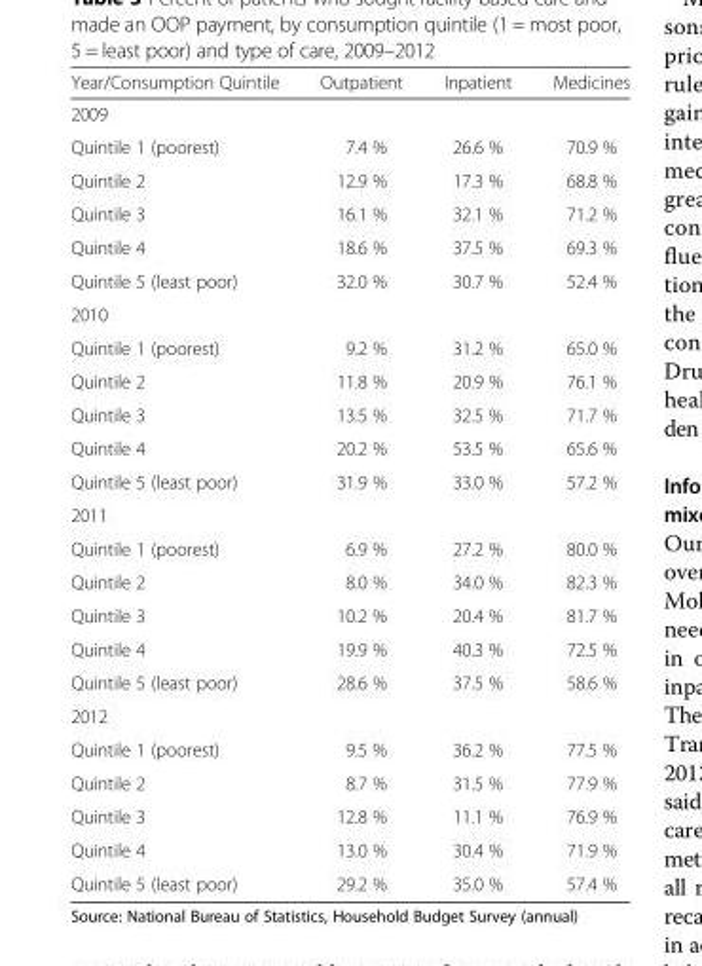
<table><thead><tr><td>Year/Consumption Quintile</td><td>Outpatient</td><td>Inpatient</td><td>Medicines</td></tr></thead><tbody><tr><td colspan="4">2009</td></tr><tr><td>Quintile 1 (poorest)</td><td>7.4 %</td><td>26.6 %</td><td>70.9 %</td></tr><tr><td>Quintile 2</td><td>12.9 %</td><td>17.3 %</td><td>68.8 %</td></tr><tr><td>Quintile 3</td><td>16.1 %</td><td>32.1 %</td><td>71.2 %</td></tr><tr><td>Quintile 4</td><td>18.6 %</td><td>37.5 %</td><td>69.3 %</td></tr><tr><td>Quintile 5 (least poor)</td><td>32.0 %</td><td>30.7 %</td><td>52.4 %</td></tr><tr><td colspan="4">2010</td></tr><tr><td>Quintile 1 (poorest)</td><td>9.2 %</td><td>31.2 %</td><td>65.0 %</td></tr><tr><td>Quintile 2</td><td>11.8 %</td><td>20.9 %</td><td>76.1 %</td></tr><tr><td>Quintile 3</td><td>13.5 %</td><td>32.5 %</td><td>71.7 %</td></tr><tr><td>Quintile 4</td><td>20.2 %</td><td>53.5 %</td><td>65.6 %</td></tr><tr><td>Quintile 5 (least poor)</td><td>31.9 %</td><td>33.0 %</td><td>57.2 %</td></tr><tr><td colspan="4">2011</td></tr><tr><td>Quintile 1 (poorest)</td><td>6.9 %</td><td>27.2 %</td><td>80.0 %</td></tr><tr><td>Quintile 2</td><td>8.0 %</td><td>34.0 %</td><td>82.3 %</td></tr><tr><td>Quintile 3</td><td>10.2 %</td><td>20.4 %</td><td>81.7 %</td></tr><tr><td>Quintile 4</td><td>19.9 %</td><td>40.3 %</td><td>72.5 %</td></tr><tr><td>Quintile 5 (least poor)</td><td>28.6 %</td><td>37.5 %</td><td>58.6 %</td></tr><tr><td colspan="4">2012</td></tr><tr><td>Quintile 1 (poorest)</td><td>9.5 %</td><td>36.2 %</td><td>77.5 %</td></tr><tr><td>Quintile 2</td><td>8.7 %</td><td>31.5 %</td><td>77.9 %</td></tr><tr><td>Quintile 3</td><td>12.8 %</td><td>11.1 %</td><td>76.9 %</td></tr><tr><td>Quintile 4</td><td>13.0 %</td><td>30.4 %</td><td>71.9 %</td></tr><tr><td>Quintile 5 (least poor)</td><td>29.2 %</td><td>35.0 %</td><td>57.4 %</td></tr></tbody></table>